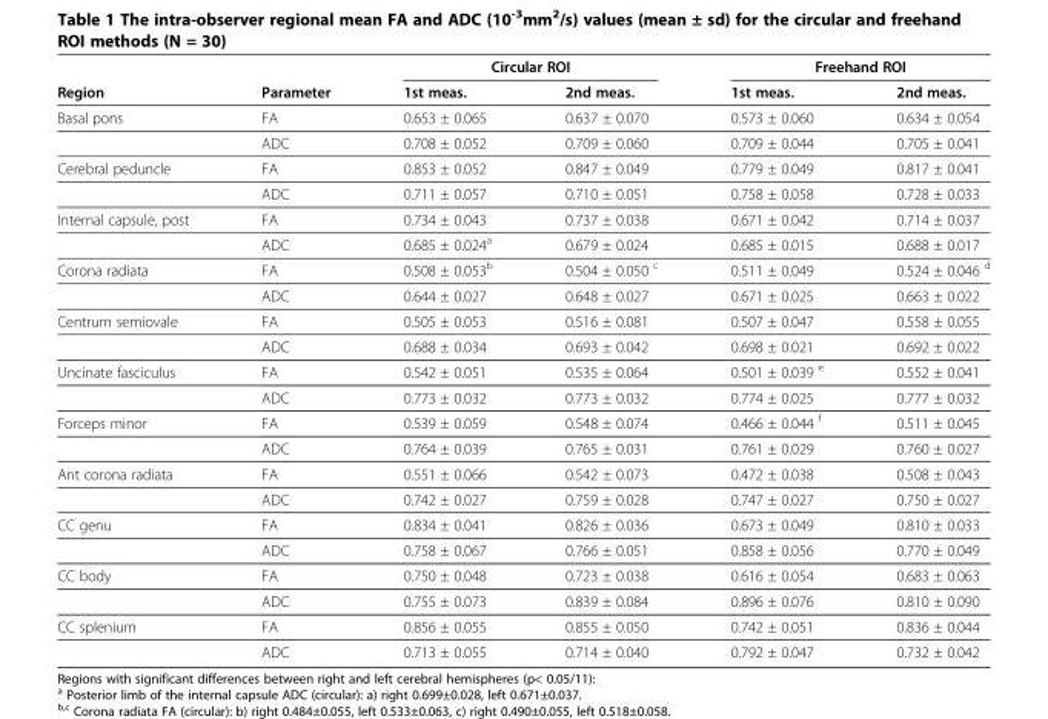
<table><thead><tr><td rowspan="2">Region</td><td rowspan="2">Parameter</td><td colspan="2">Circular ROI</td><td colspan="2">Freehand ROI</td></tr><tr><td>1st meas.</td><td>2nd meas.</td><td>1st meas.</td><td>2nd meas.</td></tr></thead><tbody><tr><td rowspan="2">Basal pons</td><td>FA</td><td>0.653 ± 0.065</td><td>0.637 ± 0.070</td><td>0.573 ± 0.060</td><td>0.634 ± 0.054</td></tr><tr><td>ADC</td><td>0.708 ± 0.052</td><td>0.709 ± 0.060</td><td>0.709 ± 0.044</td><td>0.705 ± 0.041</td></tr><tr><td rowspan="2">Cerebral peduncle</td><td>FA</td><td>0.853 ± 0.052</td><td>0.847 ± 0.049</td><td>0.779 ± 0.049</td><td>0.817 ± 0.041</td></tr><tr><td>ADC</td><td>0.711 ± 0.057</td><td>0.710 ± 0.051</td><td>0.758 ± 0.058</td><td>0.728 ± 0.033</td></tr><tr><td rowspan="2">Internal capsule, post</td><td>FA</td><td>0.734 ± 0.043</td><td>0.737 ± 0.038</td><td>0.671 ± 0.042</td><td>0.714 ± 0.037</td></tr><tr><td>ADC</td><td>0.685 ± 0.024<sup>a</sup></td><td>0.679 ± 0.024</td><td>0.685 ± 0.015</td><td>0.688 ± 0.017</td></tr><tr><td rowspan="2">Corona radiata</td><td>FA</td><td>0.508 ± 0.053<sup>b</sup></td><td>0.504 ± 0.050 <sup>c</sup></td><td>0.511 ± 0.049</td><td>0.524 ± 0.046 <sup>d</sup></td></tr><tr><td>ADC</td><td>0.644 ± 0.027</td><td>0.648 ± 0.027</td><td>0.671 ± 0.025</td><td>0.663 ± 0.022</td></tr><tr><td rowspan="2">Centrum semiovale</td><td>FA</td><td>0.505 ± 0.053</td><td>0.516 ± 0.081</td><td>0.507 ± 0.047</td><td>0.558 ± 0.055</td></tr><tr><td>ADC</td><td>0.688 ± 0.034</td><td>0.693 ± 0.042</td><td>0.698 ± 0.021</td><td>0.692 ± 0.022</td></tr><tr><td rowspan="2">Uncinate fasciculus</td><td>FA</td><td>0.542 ± 0.051</td><td>0.535 ± 0.064</td><td>0.501 ± 0.039 <sup>e</sup></td><td>0.552 ± 0.041</td></tr><tr><td>ADC</td><td>0.773 ± 0.032</td><td>0.773 ± 0.032</td><td>0.774 ± 0.025</td><td>0.777 ± 0.032</td></tr><tr><td rowspan="2">Forceps minor</td><td>FA</td><td>0.539 ± 0.059</td><td>0.548 ± 0.074</td><td>0.466 ± 0.044 <sup>f</sup></td><td>0.511 ± 0.045</td></tr><tr><td>ADC</td><td>0.764 ± 0.039</td><td>0.765 ± 0.031</td><td>0.761 ± 0.029</td><td>0.760 ± 0.027</td></tr><tr><td rowspan="2">Ant corona radiata</td><td>FA</td><td>0.551 ± 0.066</td><td>0.542 ± 0.073</td><td>0.472 ± 0.038</td><td>0.508 ± 0.043</td></tr><tr><td>ADC</td><td>0.742 ± 0.027</td><td>0.759 ± 0.028</td><td>0.747 ± 0.027</td><td>0.750 ± 0.027</td></tr><tr><td rowspan="2">CC genu</td><td>FA</td><td>0.834 ± 0.041</td><td>0.826 ± 0.036</td><td>0.673 ± 0.049</td><td>0.810 ± 0.033</td></tr><tr><td>ADC</td><td>0.758 ± 0.067</td><td>0.766 ± 0.051</td><td>0.858 ± 0.056</td><td>0.770 ± 0.049</td></tr><tr><td rowspan="2">CC body</td><td>FA</td><td>0.750 ± 0.048</td><td>0.723 ± 0.038</td><td>0.616 ± 0.054</td><td>0.683 ± 0.063</td></tr><tr><td>ADC</td><td>0.755 ± 0.073</td><td>0.839 ± 0.084</td><td>0.896 ± 0.076</td><td>0.810 ± 0.090</td></tr><tr><td rowspan="2">CC splenium</td><td>FA</td><td>0.856 ± 0.055</td><td>0.855 ± 0.050</td><td>0.742 ± 0.051</td><td>0.836 ± 0.044</td></tr><tr><td>ADC</td><td>0.713 ± 0.055</td><td>0.714 ± 0.040</td><td>0.792 ± 0.047</td><td>0.732 ± 0.042</td></tr></tbody></table>